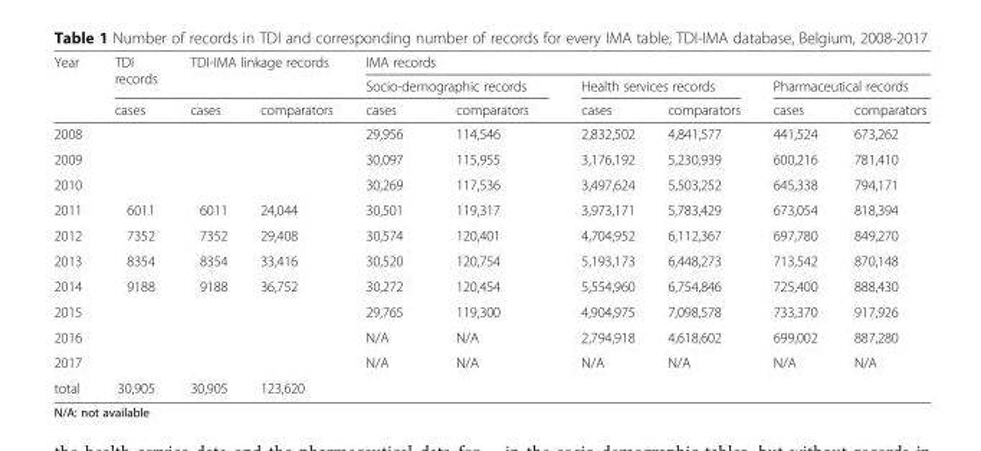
<table><thead><tr><td rowspan="3">Year</td><td rowspan="3">TDI records cases</td><td rowspan="2" colspan="2">TDI-IMA linkage records</td><td colspan="6">IMA records</td></tr><tr><td colspan="2">Socio-demographic records</td><td colspan="2">Health services records</td><td colspan="2">Pharmaceutical records</td></tr><tr><td>cases</td><td>comparators</td><td>cases</td><td>comparators</td><td>cases</td><td>comparators</td><td>cases</td><td>comparators</td></tr></thead><tbody><tr><td>2008</td><td rowspan="3"></td><td rowspan="3" colspan="2"></td><td>29,956</td><td>114,546</td><td>2,832,502</td><td>4,841,577</td><td>441,524</td><td>673,262</td></tr><tr><td>2009</td><td>30,097</td><td>115,955</td><td>3,176,192</td><td>5,230,939</td><td>600,216</td><td>781,410</td></tr><tr><td>2010</td><td>30,269</td><td>117,536</td><td>3,497,624</td><td>5,503,252</td><td>645,338</td><td>794,171</td></tr><tr><td>2011</td><td>6011</td><td>6011</td><td>24,044</td><td>30,501</td><td>119,317</td><td>3,973,171</td><td>5,783,429</td><td>673,054</td><td>818,394</td></tr><tr><td>2012</td><td>7352</td><td>7352</td><td>29,408</td><td>30,574</td><td>120,401</td><td>4,704,952</td><td>6,112,367</td><td>697,780</td><td>849,270</td></tr><tr><td>2013</td><td>8354</td><td>8354</td><td>33,416</td><td>30,520</td><td>120,754</td><td>5,193,173</td><td>6,448,273</td><td>713,542</td><td>870,148</td></tr><tr><td>2014</td><td>9188</td><td>9188</td><td>36,752</td><td>30,272</td><td>120,454</td><td>5,554,960</td><td>6,754,846</td><td>725,400</td><td>888,430</td></tr><tr><td>2015</td><td rowspan="3"></td><td rowspan="3" colspan="2"></td><td>29,765</td><td>119,300</td><td>4,904,975</td><td>7,098,578</td><td>733,370</td><td>917,926</td></tr><tr><td>2016</td><td>N/A</td><td>N/A</td><td>2,794,918</td><td>4,618,602</td><td>699,002</td><td>887,280</td></tr><tr><td>2017</td><td>N/A</td><td>N/A</td><td>N/A</td><td>N/A</td><td>N/A</td><td>N/A</td></tr><tr><td>total</td><td>30,905</td><td>30,905</td><td>123,620</td><td></td><td></td><td></td><td></td><td></td><td></td></tr></tbody></table>